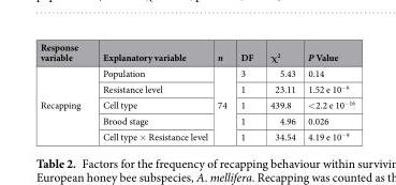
<table><thead><tr><td>Response variable</td><td>Explanatory variable</td><td>n</td><td>DF</td><td>χ<sup>2</sup></td><td>P Value</td></tr></thead><tbody><tr><td rowspan="5">Recapping</td><td>Population</td><td rowspan="5">74</td><td>3</td><td>5.43</td><td>0.14</td></tr><tr><td>Resistance level</td><td>1</td><td>23.11</td><td>1.52 e 10<sup>−6</sup></td></tr><tr><td>Cell type</td><td>1</td><td>439.8</td><td>&lt;2.2 e 10<sup>−16</sup></td></tr><tr><td>Brood stage</td><td>1</td><td>4.96</td><td>0.026</td></tr><tr><td>Cell type × Resistance level</td><td>1</td><td>34.54</td><td>4.19 e 10<sup>−9</sup></td></tr></tbody></table>